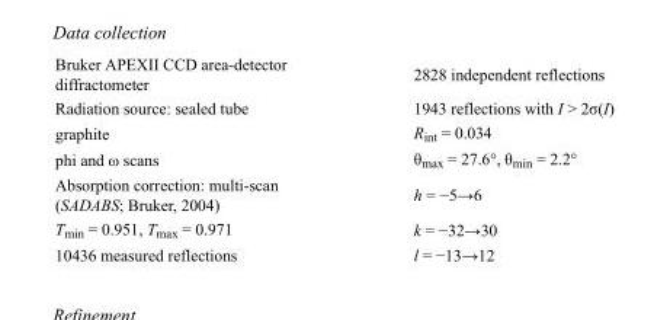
<table><tbody><tr><td>Bruker APEXII CCD area-detector diffractometer</td><td>2828 independent reflections</td></tr><tr><td>Radiation source: sealed tube</td><td>1943 reflections with I &gt; 2σ(I)</td></tr><tr><td>graphite</td><td>R<sub>int</sub> = 0.034</td></tr><tr><td>phi and ω scans</td><td>θ<sub>max</sub> = 27.6°, θ<sub>min</sub> = 2.2°</td></tr><tr><td>Absorption correction: multi-scan (SADABS; Bruker, 2004)</td><td>h = −5→6</td></tr><tr><td>T<sub>min</sub> = 0.951, T<sub>max</sub> = 0.971</td><td>k = −32→30</td></tr><tr><td>10436 measured reflections</td><td>l = −13→12</td></tr></tbody></table>